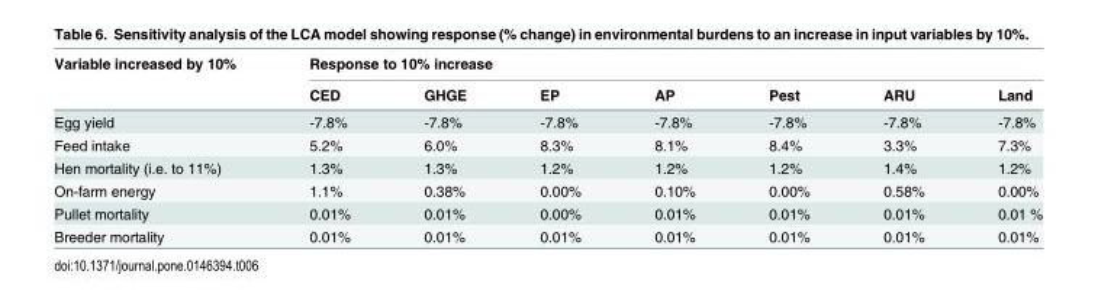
<table><thead><tr><td rowspan="2">Variable increased by 10%</td><td colspan="7">Response to 10% increase</td></tr><tr><td>CED</td><td>GHGE</td><td>EP</td><td>AP</td><td>Pest</td><td>ARU</td><td>Land</td></tr></thead><tbody><tr><td>Egg yield</td><td>-7.8%</td><td>-7.8%</td><td>-7.8%</td><td>-7.8%</td><td>-7.8%</td><td>-7.8%</td><td>-7.8%</td></tr><tr><td>Feed intake</td><td>5.2%</td><td>6.0%</td><td>8.3%</td><td>8.1%</td><td>8.4%</td><td>3.3%</td><td>7.3%</td></tr><tr><td>Hen mortality (i.e. to 11%)</td><td>1.3%</td><td>1.3%</td><td>1.2%</td><td>1.2%</td><td>1.2%</td><td>1.4%</td><td>1.2%</td></tr><tr><td>On-farm energy</td><td>1.1%</td><td>0.38%</td><td>0.00%</td><td>0.10%</td><td>0.00%</td><td>0.58%</td><td>0.00%</td></tr><tr><td>Pullet mortality</td><td>0.01%</td><td>0.01%</td><td>0.00%</td><td>0.01%</td><td>0.01%</td><td>0.01%</td><td>0.01 %</td></tr><tr><td>Breeder mortality</td><td>0.01%</td><td>0.01%</td><td>0.01%</td><td>0.01%</td><td>0.01%</td><td>0.01%</td><td>0.01%</td></tr></tbody></table>